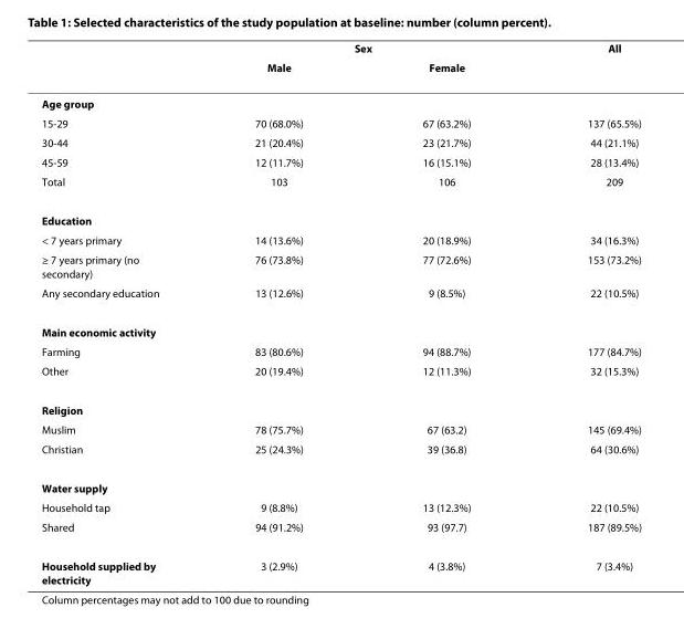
<table><thead><tr><td rowspan="2"></td><td colspan="2">Sex</td><td rowspan="2">All</td></tr><tr><td>Male</td><td>Female</td></tr></thead><tbody><tr><td colspan="4">Age group</td></tr><tr><td>15-29</td><td>70 (68.0%)</td><td>67 (63.2%)</td><td>137 (65.5%)</td></tr><tr><td>30-44</td><td>21 (20.4%)</td><td>23 (21.7%)</td><td>44 (21.1%)</td></tr><tr><td>45-59</td><td>12 (11.7%)</td><td>16 (15.1%)</td><td>28 (13.4%)</td></tr><tr><td>Total</td><td>103</td><td>106</td><td>209</td></tr><tr><td colspan="4">Education</td></tr><tr><td>&lt; 7 years primary</td><td>14 (13.6%)</td><td>20 (18.9%)</td><td>34 (16.3%)</td></tr><tr><td>≥ 7 years primary (no secondary)</td><td>76 (73.8%)</td><td>77 (72.6%)</td><td>153 (73.2%)</td></tr><tr><td>Any secondary education</td><td>13 (12.6%)</td><td>9 (8.5%)</td><td>22 (10.5%)</td></tr><tr><td colspan="4">Main economic activity</td></tr><tr><td>Farming</td><td>83 (80.6%)</td><td>94 (88.7%)</td><td>177 (84.7%)</td></tr><tr><td>Other</td><td>20 (19.4%)</td><td>12 (11.3%)</td><td>32 (15.3%)</td></tr><tr><td colspan="4">Religion</td></tr><tr><td>Muslim</td><td>78 (75.7%)</td><td>67 (63.2)</td><td>145 (69.4%)</td></tr><tr><td>Christian</td><td>25 (24.3%)</td><td>39 (36.8)</td><td>64 (30.6%)</td></tr><tr><td colspan="4">Water supply</td></tr><tr><td>Household tap</td><td>9 (8.8%)</td><td>13 (12.3%)</td><td>22 (10.5%)</td></tr><tr><td>Shared</td><td>94 (91.2%)</td><td>93 (97.7)</td><td>187 (89.5%)</td></tr><tr><td>Household supplied by electricity</td><td>3 (2.9%)</td><td>4 (3.8%)</td><td>7 (3.4%)</td></tr></tbody></table>